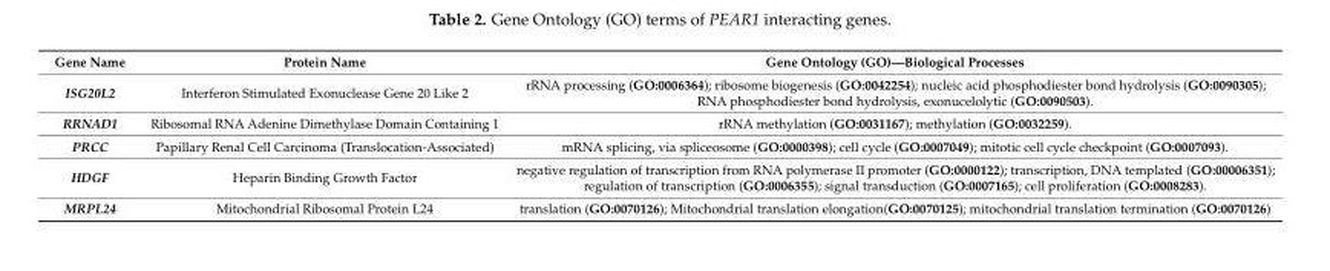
<table><thead><tr><td>Gene Name</td><td>Protein Name</td><td>Gene Ontology (GO)—Biological Processes</td></tr></thead><tbody><tr><td>ISG20L2</td><td>Interferon Stimulated Exonuclease Gene 20 Like 2</td><td>rRNA processing (GO:0006364); ribosome biogenesis (GO:0042254); nucleic acid phosphodiester bond hydrolysis (GO:0090305); RNA phosphodiester bond hydrolysis, exonucelolytic (GO:0090503).</td></tr><tr><td>RRNAD1</td><td>Ribosomal RNA Adenine Dimethylase Domain Containing 1</td><td>rRNA methylation (GO:0031167); methylation (GO:0032259).</td></tr><tr><td>PRCC</td><td>Papillary Renal Cell Carcinoma (Translocation-Associated)</td><td>mRNA splicing, via spliceosome (GO:0000398); cell cycle (GO:0007049); mitotic cell cycle checkpoint (GO:0007093).</td></tr><tr><td>HDGF</td><td>Heparin Binding Growth Factor</td><td>negative regulation of transcription from RNA polymerase II promoter (GO:0000122); transcription, DNA templated (GO:00006351); regulation of transcription (GO:0006355); signal transduction (GO:0007165); cell proliferation (GO:0008283).</td></tr><tr><td>MRPL24</td><td>Mitochondrial Ribosomal Protein L24</td><td>translation (GO:0070126); Mitochondrial translation elongation(GO:0070125); mitochondrial translation termination (GO:0070126)</td></tr></tbody></table>